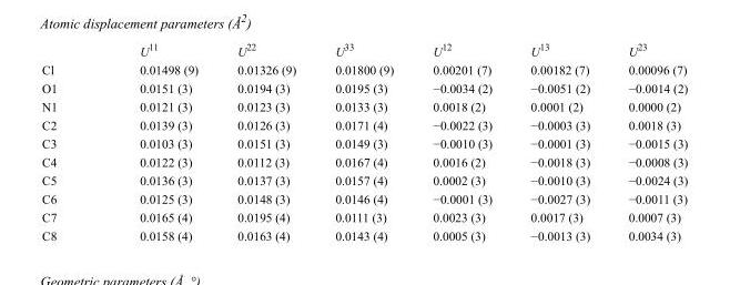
<table><thead><tr><td></td><td>U<sup>11</sup></td><td>U<sup>22</sup></td><td>U<sup>33</sup></td><td>U<sup>12</sup></td><td>U<sup>13</sup></td><td>U<sup>23</sup></td></tr></thead><tbody><tr><td>Cl</td><td>0.01498 (9)</td><td>0.01326 (9)</td><td>0.01800 (9)</td><td>0.00201 (7)</td><td>0.00182 (7)</td><td>0.00096 (7)</td></tr><tr><td>O1</td><td>0.0151 (3)</td><td>0.0194 (3)</td><td>0.0195 (3)</td><td>−0.0034 (2)</td><td>−0.0051 (2)</td><td>−0.0014 (2)</td></tr><tr><td>N1</td><td>0.0121 (3)</td><td>0.0123 (3)</td><td>0.0133 (3)</td><td>0.0018 (2)</td><td>0.0001 (2)</td><td>0.0000 (2)</td></tr><tr><td>C2</td><td>0.0139 (3)</td><td>0.0126 (3)</td><td>0.0171 (4)</td><td>−0.0022 (3)</td><td>−0.0003 (3)</td><td>0.0018 (3)</td></tr><tr><td>C3</td><td>0.0103 (3)</td><td>0.0151 (3)</td><td>0.0149 (3)</td><td>−0.0010 (3)</td><td>−0.0001 (3)</td><td>−0.0015 (3)</td></tr><tr><td>C4</td><td>0.0122 (3)</td><td>0.0112 (3)</td><td>0.0167 (4)</td><td>0.0016 (2)</td><td>−0.0018 (3)</td><td>−0.0008 (3)</td></tr><tr><td>C5</td><td>0.0136 (3)</td><td>0.0137 (3)</td><td>0.0157 (4)</td><td>0.0002 (3)</td><td>−0.0010 (3)</td><td>−0.0024 (3)</td></tr><tr><td>C6</td><td>0.0125 (3)</td><td>0.0148 (3)</td><td>0.0146 (4)</td><td>−0.0001 (3)</td><td>−0.0027 (3)</td><td>−0.0011 (3)</td></tr><tr><td>C7</td><td>0.0165 (4)</td><td>0.0195 (4)</td><td>0.0111 (3)</td><td>0.0023 (3)</td><td>0.0017 (3)</td><td>0.0007 (3)</td></tr><tr><td>C8</td><td>0.0158 (4)</td><td>0.0163 (4)</td><td>0.0143 (4)</td><td>0.0005 (3)</td><td>−0.0013 (3)</td><td>0.0034 (3)</td></tr></tbody></table>